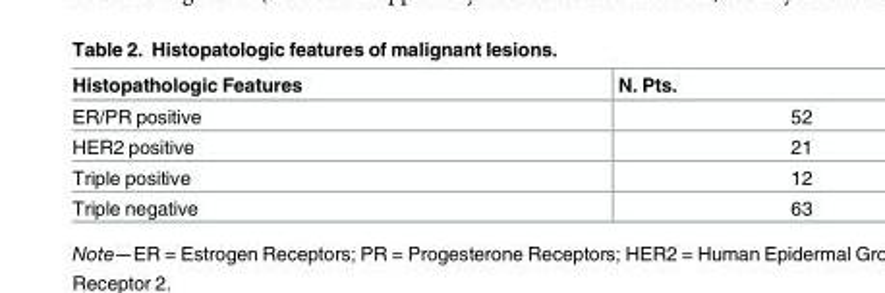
<table><thead><tr><td>Histopathologic Features</td><td>N. Pts.</td></tr></thead><tbody><tr><td>ER/PR positive</td><td>52</td></tr><tr><td>HER2 positive</td><td>21</td></tr><tr><td>Triple positive</td><td>12</td></tr><tr><td>Triple negative</td><td>63</td></tr></tbody></table>